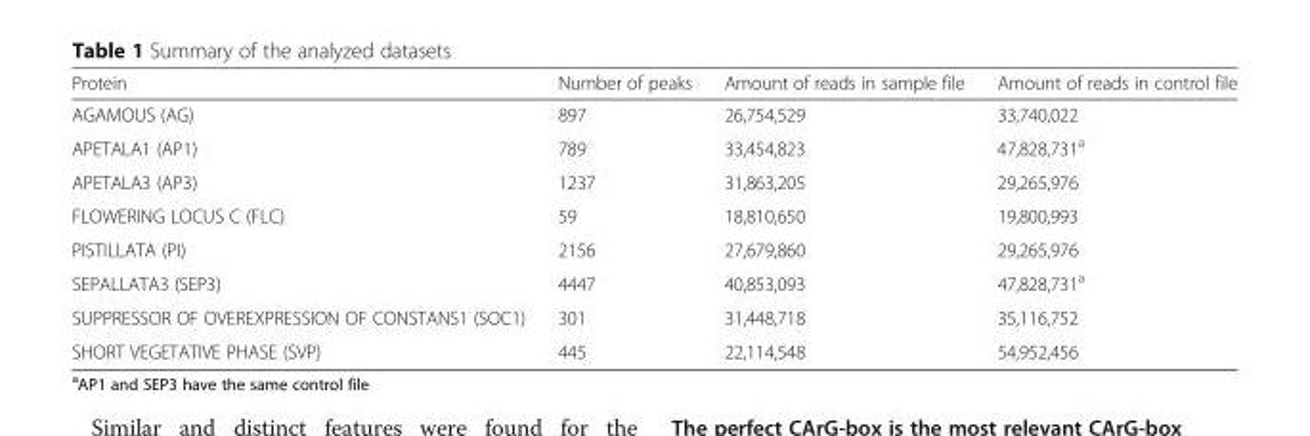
<table><thead><tr><td>Protein</td><td>Number of peaks</td><td>Amount of reads in sample file</td><td>Amount of reads in control file</td></tr></thead><tbody><tr><td>AGAMOUS (AG)</td><td>897</td><td>26,754,529</td><td>33,740,022</td></tr><tr><td>APETALA1 (AP1)</td><td>789</td><td>33,454,823</td><td>47,828,731<sup>a</sup></td></tr><tr><td>APETALA3 (AP3)</td><td>1237</td><td>31,863,205</td><td>29,265,976</td></tr><tr><td>FLOWERING LOCUS C (FLC)</td><td>59</td><td>18,810,650</td><td>19,800,993</td></tr><tr><td>PISTILLATA (PI)</td><td>2156</td><td>27,679,860</td><td>29,265,976</td></tr><tr><td>SEPALLATA3 (SEP3)</td><td>4447</td><td>40,853,093</td><td>47,828,731<sup>a</sup></td></tr><tr><td>SUPPRESSOR OF OVEREXPRESSION OF CONSTANS1 (SOC1)</td><td>301</td><td>31,448,718</td><td>35,116,752</td></tr><tr><td>SHORT VEGETATIVE PHASE (SVP)</td><td>445</td><td>22,114,548</td><td>54,952,456</td></tr></tbody></table>